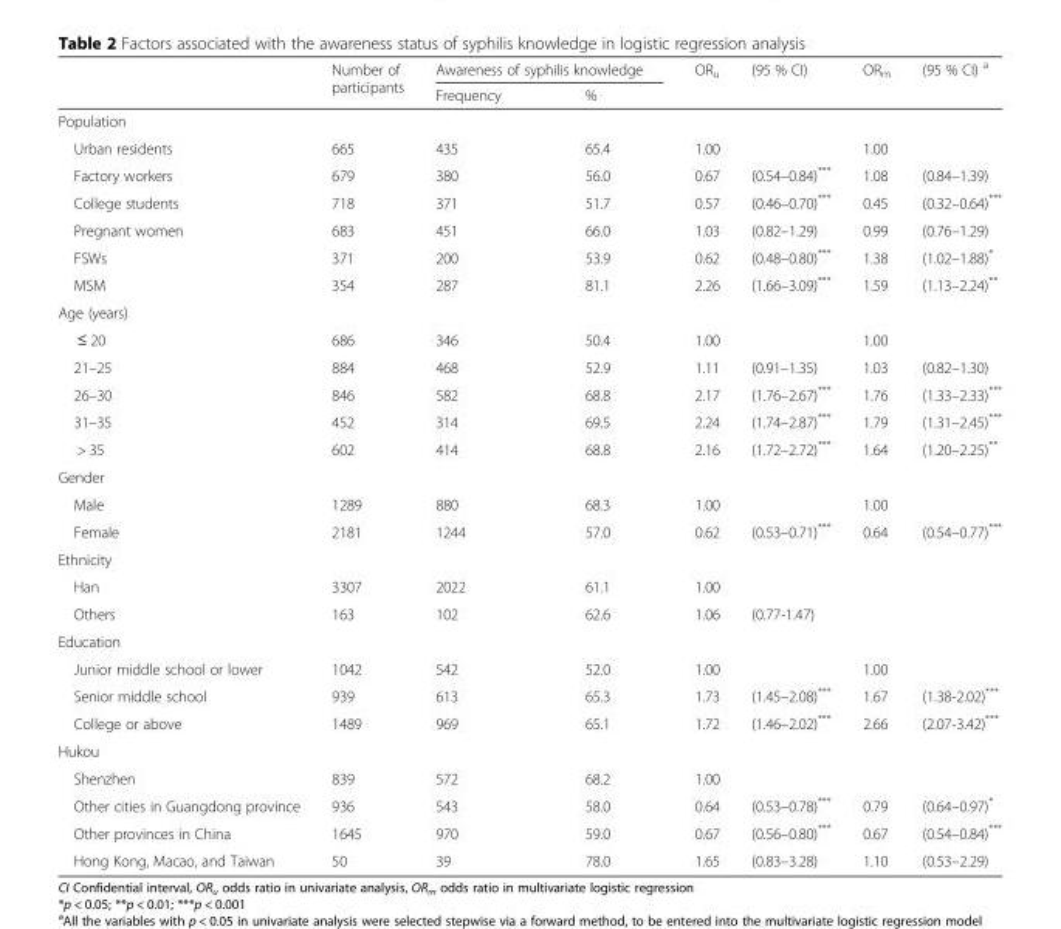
<table><thead><tr><td rowspan="2"></td><td rowspan="2">Number of participants</td><td colspan="2">Awareness of syphilis knowledge</td><td rowspan="2">OR<sub>u</sub></td><td rowspan="2">(95 % CI)</td><td rowspan="2">OR<sub>m</sub></td><td rowspan="2">(95 % CI) <sup>a</sup></td></tr><tr><td>Frequency</td><td>%</td></tr></thead><tbody><tr><td colspan="8">Population</td></tr><tr><td>Urban residents</td><td>665</td><td>435</td><td>65.4</td><td>1.00</td><td></td><td>1.00</td><td></td></tr><tr><td>Factory workers</td><td>679</td><td>380</td><td>56.0</td><td>0.67</td><td>(0.54–0.84)***</td><td>1.08</td><td>(0.84–1.39)</td></tr><tr><td>College students</td><td>718</td><td>371</td><td>51.7</td><td>0.57</td><td>(0.46–0.70)***</td><td>0.45</td><td>(0.32–0.64)***</td></tr><tr><td>Pregnant women</td><td>683</td><td>451</td><td>66.0</td><td>1.03</td><td>(0.82–1.29)</td><td>0.99</td><td>(0.76–1.29)</td></tr><tr><td>FSWs</td><td>371</td><td>200</td><td>53.9</td><td>0.62</td><td>(0.48–0.80)***</td><td>1.38</td><td>(1.02–1.88)*</td></tr><tr><td>MSM</td><td>354</td><td>287</td><td>81.1</td><td>2.26</td><td>(1.66–3.09)***</td><td>1.59</td><td>(1.13–2.24)**</td></tr><tr><td colspan="8">Age (years)</td></tr><tr><td>≤ 20</td><td>686</td><td>346</td><td>50.4</td><td>1.00</td><td></td><td>1.00</td><td></td></tr><tr><td>21–25</td><td>884</td><td>468</td><td>52.9</td><td>1.11</td><td>(0.91–1.35)</td><td>1.03</td><td>(0.82–1.30)</td></tr><tr><td>26–30</td><td>846</td><td>582</td><td>68.8</td><td>2.17</td><td>(1.76–2.67)***</td><td>1.76</td><td>(1.33–2.33)***</td></tr><tr><td>31–35</td><td>452</td><td>314</td><td>69.5</td><td>2.24</td><td>(1.74–2.87)***</td><td>1.79</td><td>(1.31–2.45)***</td></tr><tr><td>&gt; 35</td><td>602</td><td>414</td><td>68.8</td><td>2.16</td><td>(1.72–2.72)***</td><td>1.64</td><td>(1.20–2.25)**</td></tr><tr><td colspan="8">Gender</td></tr><tr><td>Male</td><td>1289</td><td>880</td><td>68.3</td><td>1.00</td><td></td><td>1.00</td><td></td></tr><tr><td>Female</td><td>2181</td><td>1244</td><td>57.0</td><td>0.62</td><td>(0.53–0.71)***</td><td>0.64</td><td>(0.54–0.77)***</td></tr><tr><td colspan="8">Ethnicity</td></tr><tr><td>Han</td><td>3307</td><td>2022</td><td>61.1</td><td>1.00</td><td></td><td></td><td></td></tr><tr><td>Others</td><td>163</td><td>102</td><td>62.6</td><td>1.06</td><td>(0.77-1.47)</td><td></td><td></td></tr><tr><td colspan="8">Education</td></tr><tr><td>Junior middle school or lower</td><td>1042</td><td>542</td><td>52.0</td><td>1.00</td><td></td><td>1.00</td><td></td></tr><tr><td>Senior middle school</td><td>939</td><td>613</td><td>65.3</td><td>1.73</td><td>(1.45–2.08)***</td><td>1.67</td><td>(1.38-2.02)***</td></tr><tr><td>College or above</td><td>1489</td><td>969</td><td>65.1</td><td>1.72</td><td>(1.46–2.02)***</td><td>2.66</td><td>(2.07-3.42)***</td></tr><tr><td colspan="8">Hukou</td></tr><tr><td>Shenzhen</td><td>839</td><td>572</td><td>68.2</td><td>1.00</td><td></td><td></td><td></td></tr><tr><td>Other cities in Guangdong province</td><td>936</td><td>543</td><td>58.0</td><td>0.64</td><td>(0.53–0.78)***</td><td>0.79</td><td>(0.64–0.97)*</td></tr><tr><td>Other provinces in China</td><td>1645</td><td>970</td><td>59.0</td><td>0.67</td><td>(0.56–0.80)***</td><td>0.67</td><td>(0.54–0.84)***</td></tr><tr><td>Hong Kong, Macao, and Taiwan</td><td>50</td><td>39</td><td>78.0</td><td>1.65</td><td>(0.83–3.28)</td><td>1.10</td><td>(0.53–2.29)</td></tr></tbody></table>